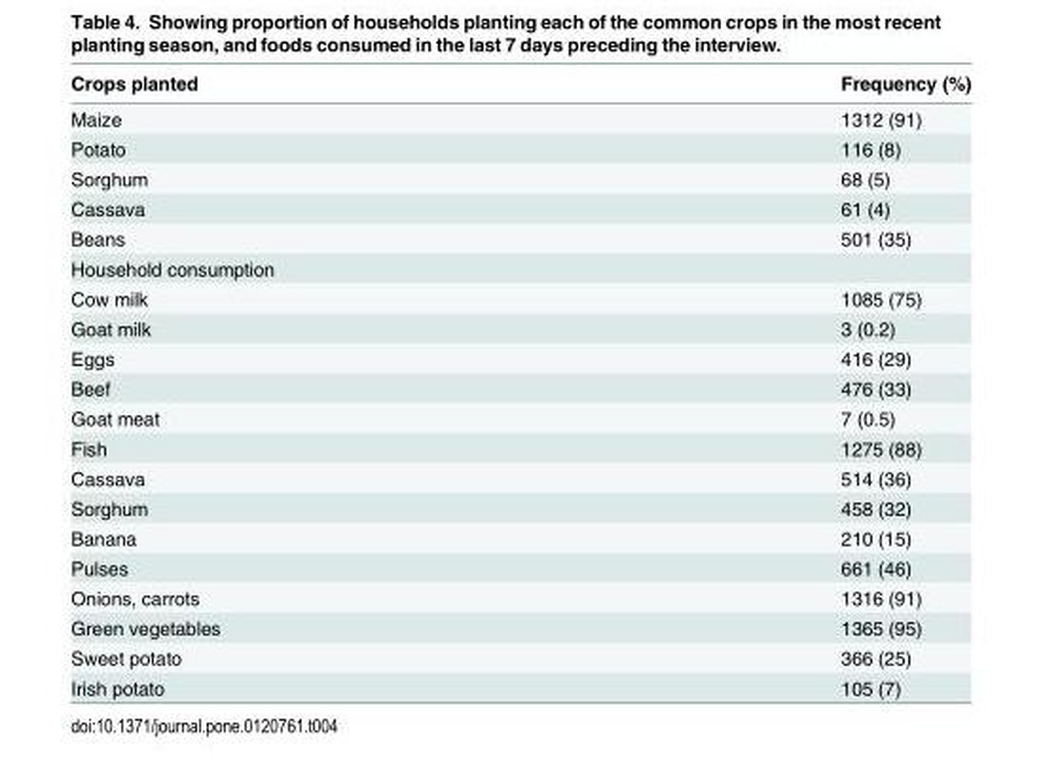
<table><thead><tr><td>Crops planted</td><td>Frequency (%)</td></tr></thead><tbody><tr><td>Maize</td><td>1312 (91)</td></tr><tr><td>Potato</td><td>116 (8)</td></tr><tr><td>Sorghum</td><td>68 (5)</td></tr><tr><td>Cassava</td><td>61 (4)</td></tr><tr><td>Beans</td><td>501 (35)</td></tr><tr><td colspan="2">Household consumption</td></tr><tr><td>Cow milk</td><td>1085 (75)</td></tr><tr><td>Goat milk</td><td>3 (0.2)</td></tr><tr><td>Eggs</td><td>416 (29)</td></tr><tr><td>Beef</td><td>476 (33)</td></tr><tr><td>Goat meat</td><td>7 (0.5)</td></tr><tr><td>Fish</td><td>1275 (88)</td></tr><tr><td>Cassava</td><td>514 (36)</td></tr><tr><td>Sorghum</td><td>458 (32)</td></tr><tr><td>Banana</td><td>210 (15)</td></tr><tr><td>Pulses</td><td>661 (46)</td></tr><tr><td>Onions, carrots</td><td>1316 (91)</td></tr><tr><td>Green vegetables</td><td>1365 (95)</td></tr><tr><td>Sweet potato</td><td>366 (25)</td></tr><tr><td>Irish potato</td><td>105 (7)</td></tr></tbody></table>